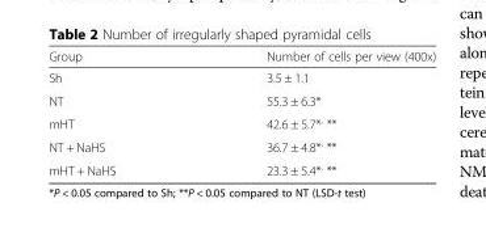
<table><thead><tr><td>Group</td><td>Number of cells per view (400x)</td></tr></thead><tbody><tr><td>Sh</td><td>3.5 ± 1.1</td></tr><tr><td>NT</td><td>55.3 ± 6.3*</td></tr><tr><td>mHT</td><td>42.6 ± 5.7*<sup>,</sup> **</td></tr><tr><td>NT + NaHS</td><td>36.7 ± 4.8*<sup>,</sup> **</td></tr><tr><td>mHT + NaHS</td><td>23.3 ± 5.4*<sup>,</sup> **</td></tr></tbody></table>